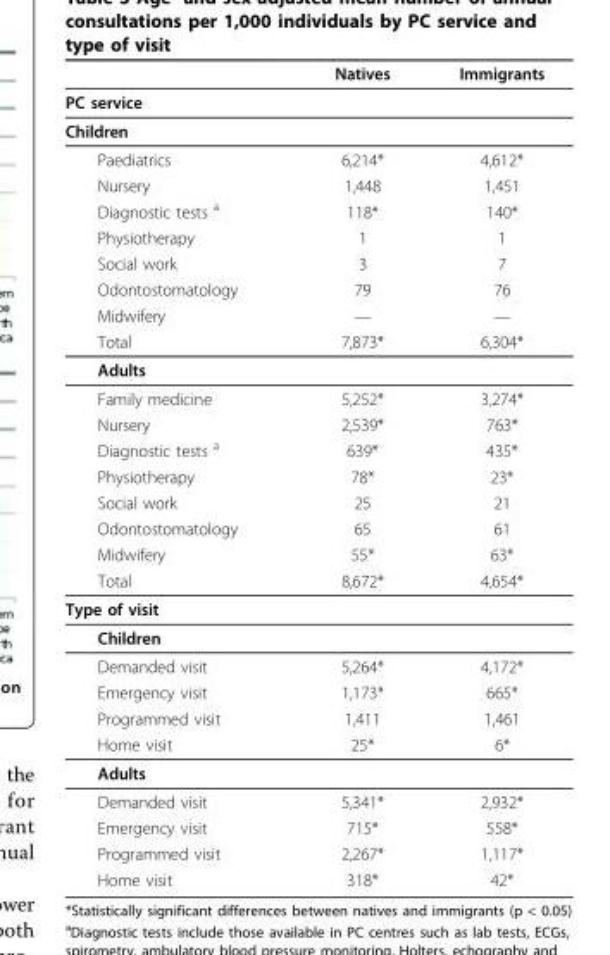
<table><thead><tr><td></td><td>Natives</td><td>Immigrants</td></tr></thead><tbody><tr><td colspan="3">PC service</td></tr><tr><td colspan="3">Children</td></tr><tr><td>Paediatrics</td><td>6,214*</td><td>4,612*</td></tr><tr><td>Nursery</td><td>1,448</td><td>1,451</td></tr><tr><td>Diagnostic tests <sup>a</sup></td><td>118*</td><td>140*</td></tr><tr><td>Physiotherapy</td><td>1</td><td>1</td></tr><tr><td>Social work</td><td>3</td><td>7</td></tr><tr><td>Odontostomatology</td><td>79</td><td>76</td></tr><tr><td>Midwifery</td><td>—</td><td>—</td></tr><tr><td>Total</td><td>7,873*</td><td>6,304*</td></tr><tr><td colspan="3">Adults</td></tr><tr><td>Family medicine</td><td>5,252*</td><td>3,274*</td></tr><tr><td>Nursery</td><td>2,539*</td><td>763*</td></tr><tr><td>Diagnostic tests <sup>a</sup></td><td>639*</td><td>435*</td></tr><tr><td>Physiotherapy</td><td>78*</td><td>23*</td></tr><tr><td>Social work</td><td>25</td><td>21</td></tr><tr><td>Odontostomatology</td><td>65</td><td>61</td></tr><tr><td>Midwifery</td><td>55*</td><td>63*</td></tr><tr><td>Total</td><td>8,672*</td><td>4,654*</td></tr><tr><td colspan="3">Type of visit</td></tr><tr><td colspan="3">Children</td></tr><tr><td>Demanded visit</td><td>5,264*</td><td>4,172*</td></tr><tr><td>Emergency visit</td><td>1,173*</td><td>665*</td></tr><tr><td>Programmed visit</td><td>1,411</td><td>1,461</td></tr><tr><td>Home visit</td><td>25*</td><td>6*</td></tr><tr><td colspan="3">Adults</td></tr><tr><td>Demanded visit</td><td>5,341*</td><td>2,932*</td></tr><tr><td>Emergency visit</td><td>715*</td><td>558*</td></tr><tr><td>Programmed visit</td><td>2,267*</td><td>1,117*</td></tr><tr><td>Home visit</td><td>318*</td><td>42*</td></tr></tbody></table>